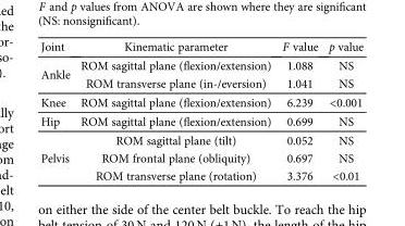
<table><thead><tr><td>Joint</td><td>Kinematic parameter</td><td>F value</td><td>p value</td></tr></thead><tbody><tr><td rowspan="2">Ankle</td><td>ROM sagittal plane (flexion/extension)</td><td>1.088</td><td>NS</td></tr><tr><td>ROM transverse plane (in-/eversion)</td><td>1.041</td><td>NS</td></tr><tr><td>Knee</td><td>ROM sagittal plane (flexion/extension)</td><td>6.239</td><td>&lt;0.001</td></tr><tr><td>Hip</td><td>ROM sagittal plane (flexion/extension)</td><td>0.699</td><td>NS</td></tr><tr><td rowspan="3">Pelvis</td><td>ROM sagittal plane (tilt)</td><td>0.052</td><td>NS</td></tr><tr><td>ROM frontal plane (obliquity)</td><td>0.697</td><td>NS</td></tr><tr><td>ROM transverse plane (rotation)</td><td>3.376</td><td>&lt;0.01</td></tr></tbody></table>